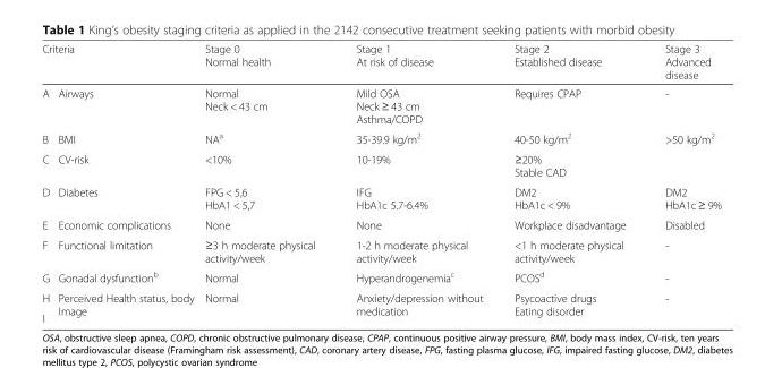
<table><thead><tr><td colspan="2">Criteria</td><td rowspan="2">Stage 0 Normal health Normal Neck &lt; 43 cm</td><td rowspan="2">Stage 1 At risk of disease Mild OSA Neck ≥ 43 cm Asthma/COPD</td><td rowspan="2">Stage 2 Established disease Requires CPAP</td><td rowspan="2">Stage 3 Advanced disease -</td></tr><tr><td>A</td><td>Airways</td></tr></thead><tbody><tr><td>B</td><td>BMI</td><td>NA<sup>a</sup></td><td>35-39.9 kg/m<sup>2</sup></td><td>40-50 kg/m<sup>2</sup></td><td>&gt;50 kg/m<sup>2</sup></td></tr><tr><td>C</td><td>CV-risk</td><td>&lt;10%</td><td>10-19%</td><td>≥20% Stable CAD</td><td></td></tr><tr><td>D</td><td>Diabetes</td><td>FPG &lt; 5,6 HbA1 &lt; 5,7</td><td>IFG HbA1c 5.7-6.4%</td><td>DM2 HbA1c &lt; 9%</td><td>DM2 HbA1c ≥ 9%</td></tr><tr><td>E</td><td>Economic complications</td><td>None</td><td>None</td><td>Workplace disadvantage</td><td>Disabled</td></tr><tr><td>F</td><td>Functional limitation</td><td>≥3 h moderate physical activity/week</td><td>1-2 h moderate physical activity/week</td><td>&lt;1 h moderate physical activity/week</td><td>-</td></tr><tr><td>G</td><td>Gonadal dysfunction<sup>b</sup></td><td>Normal</td><td>Hyperandrogenemia<sup>c</sup></td><td>PCOS<sup>d</sup></td><td>-</td></tr><tr><td>H</td><td rowspan="2">Perceived Health status, body Image</td><td rowspan="2">Normal</td><td rowspan="2">Anxiety/depression without medication</td><td rowspan="2">Psycoactive drugs Eating disorder</td><td rowspan="2">-</td></tr><tr><td>I</td></tr></tbody></table>